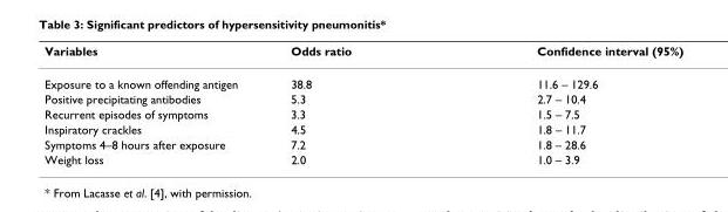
<table><thead><tr><td>Variables</td><td>Odds ratio</td><td>Confidence interval (95%)</td></tr></thead><tbody><tr><td>Exposure to a known offending antigen</td><td>38.8</td><td>11.6 – 129.6</td></tr><tr><td>Positive precipitating antibodies</td><td>5.3</td><td>2.7 – 10.4</td></tr><tr><td>Recurrent episodes of symptoms</td><td>3.3</td><td>1.5 – 7.5</td></tr><tr><td>Inspiratory crackles</td><td>4.5</td><td>1.8 – 11.7</td></tr><tr><td>Symptoms 4–8 hours after exposure</td><td>7.2</td><td>1.8 – 28.6</td></tr><tr><td>Weight loss</td><td>2.0</td><td>1.0 – 3.9</td></tr></tbody></table>